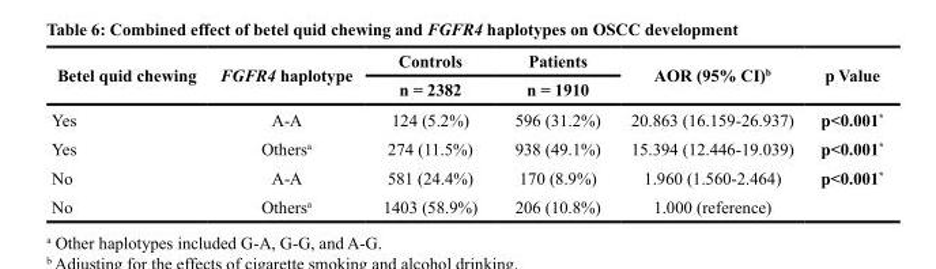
<table><thead><tr><td rowspan="2">Betel quid chewing</td><td rowspan="2">FGFR4 haplotype</td><td rowspan="2">Controls n = 2382</td><td rowspan="2">Patients n = 1910</td><td rowspan="2">AOR (95% CI)<sup>b</sup></td><td rowspan="2">p Value</td></tr><tr></tr></thead><tbody><tr><td>Yes</td><td>A-A</td><td>124 (5.2%)</td><td>596 (31.2%)</td><td>20.863 (16.159-26.937)</td><td>p&lt;0.001*</td></tr><tr><td>Yes</td><td>Others<sup>a</sup></td><td>274 (11.5%)</td><td>938 (49.1%)</td><td>15.394 (12.446-19.039)</td><td>p&lt;0.001*</td></tr><tr><td>No</td><td>A-A</td><td>581 (24.4%)</td><td>170 (8.9%)</td><td>1.960 (1.560-2.464)</td><td>p&lt;0.001*</td></tr><tr><td>No</td><td>Others<sup>a</sup></td><td>1403 (58.9%)</td><td>206 (10.8%)</td><td>1.000 (reference)</td><td></td></tr></tbody></table>